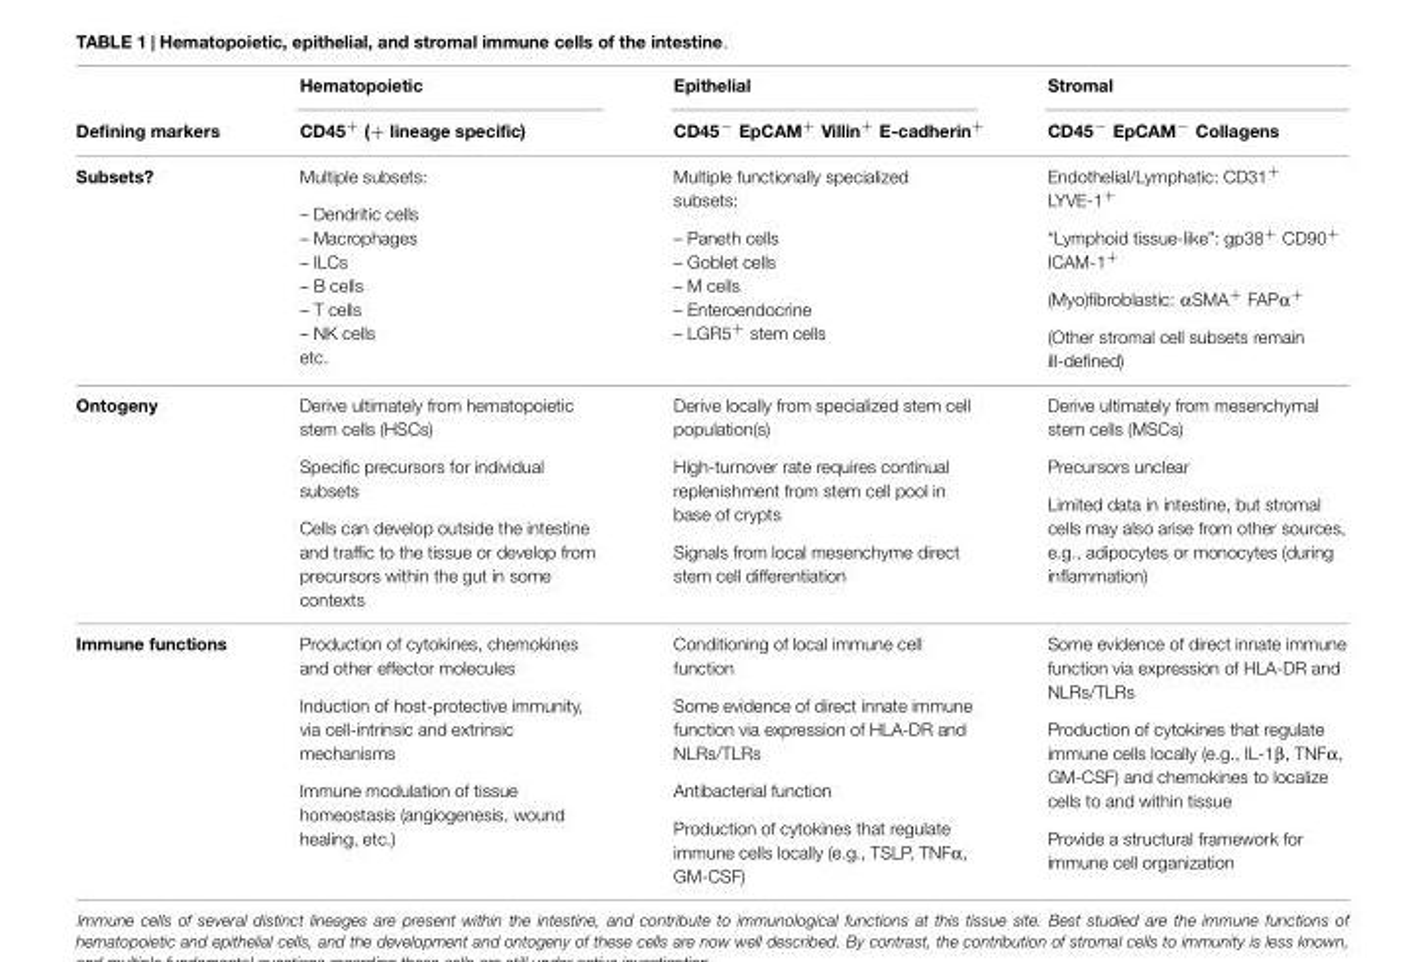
<table><thead><tr><td rowspan="2">Defining markers</td><td rowspan="2">Hematopoietic CD45<sup>+</sup> (+ lineage specific)</td><td rowspan="2">Epithelial CD45<sup>−</sup> EpCAM<sup>+</sup> Villin<sup>+</sup> E-cadherin<sup>+</sup></td><td rowspan="2">Stromal CD45<sup>−</sup> EpCAM<sup>−</sup> Collagens</td></tr><tr></tr></thead><tbody><tr><td>Subsets?</td><td>Multiple subsets: – Dendritic cells – Macrophages – ILCs – B cells – T cells – NK cells etc.</td><td>Multiple functionally specialized subsets: – Paneth cells – Goblet cells – M cells – Enteroendocrine – LGR5<sup>+</sup> stem cells</td><td>Endothelial/Lymphatic: CD31<sup>+</sup> LYVE-1<sup>+</sup> “Lymphoid tissue-like”: gp38<sup>+</sup> CD90<sup>+</sup> ICAM-1<sup>+</sup> (Myo)fibroblastic: αSMA<sup>+</sup> FAPα<sup>+</sup> (Other stromal cell subsets remain ill-defined)</td></tr><tr><td>Ontogeny</td><td>Derive ultimately from hematopoietic stem cells (HSCs) Specific precursors for individual subsets Cells can develop outside the intestine and traffic to the tissue or develop from precursors within the gut in some contexts</td><td>Derive locally from specialized stem cell population(s) High-turnover rate requires continual replenishment from stem cell pool in base of crypts Signals from local mesenchyme direct stem cell differentiation</td><td>Derive ultimately from mesenchymal stem cells (MSCs) Precursors unclear Limited data in intestine, but stromal cells may also arise from other sources, e.g., adipocytes or monocytes (during inflammation)</td></tr><tr><td>Immune functions</td><td>Production of cytokines, chemokines and other effector molecules Induction of host-protective immunity, via cell-intrinsic and extrinsic mechanisms Immune modulation of tissue homeostasis (angiogenesis, wound healing, etc.)</td><td>Conditioning of local immune cell function Some evidence of direct innate immune function via expression of HLA-DR and NLRs/TLRs Antibacterial function Production of cytokines that regulate immune cells locally (e.g., TSLP, TNFα, GM-CSF)</td><td>Some evidence of direct innate immune function via expression of HLA-DR and NLRs/TLRs Production of cytokines that regulate immune cells locally (e.g., IL-1β, TNFα, GM-CSF) and chemokines to localize cells to and within tissue Provide a structural framework for immune cell organization</td></tr></tbody></table>